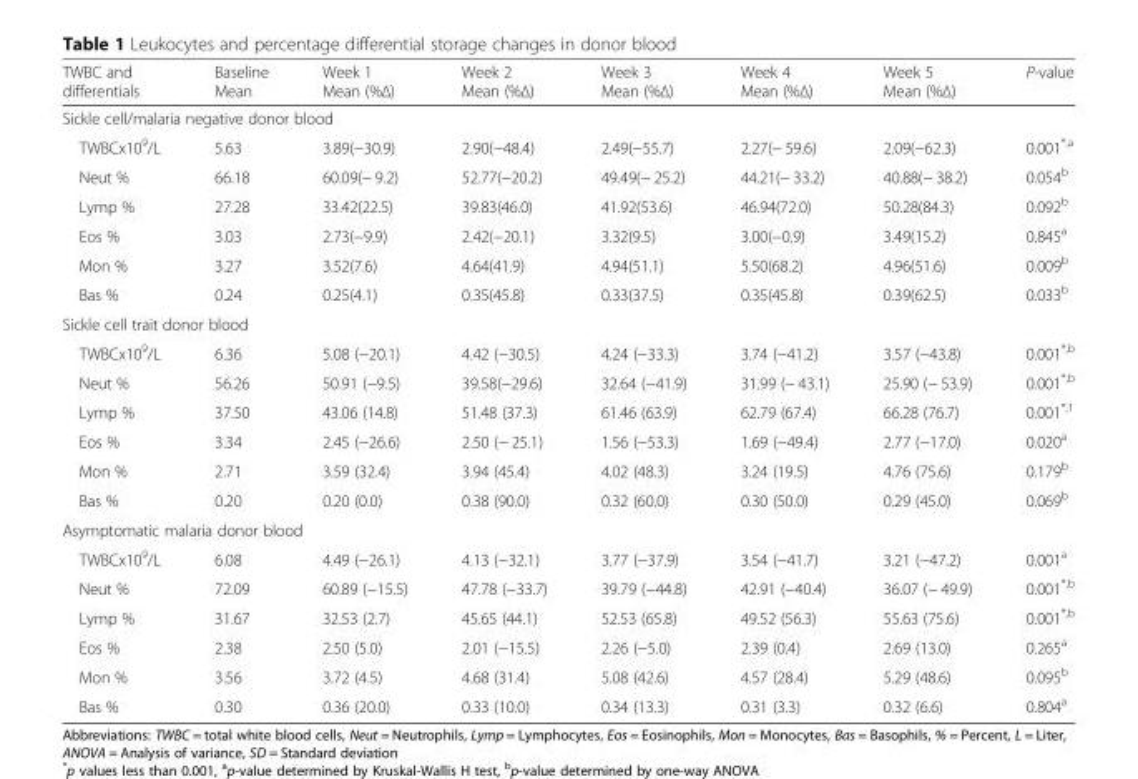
<table><thead><tr><td>TWBC and differentials</td><td>Baseline Mean</td><td>Week 1 Mean (%Δ)</td><td>Week 2 Mean (%Δ)</td><td>Week 3 Mean (%Δ)</td><td>Week 4 Mean (%Δ)</td><td>Week 5 Mean (%Δ)</td><td>P-value</td></tr></thead><tbody><tr><td colspan="8">Sickle cell/malaria negative donor blood</td></tr><tr><td>TWBCx10<sup>9</sup>/L</td><td>5.63</td><td>3.89(−30.9)</td><td>2.90(−48.4)</td><td>2.49(−55.7)</td><td>2.27(− 59.6)</td><td>2.09(−62.3)</td><td>0.001<sup>*,a</sup></td></tr><tr><td>Neut %</td><td>66.18</td><td>60.09(− 9.2)</td><td>52.77(−20.2)</td><td>49.49(− 25.2)</td><td>44.21(− 33.2)</td><td>40.88(− 38.2)</td><td>0.054<sup>b</sup></td></tr><tr><td>Lymp %</td><td>27.28</td><td>33.42(22.5)</td><td>39.83(46.0)</td><td>41.92(53.6)</td><td>46.94(72.0)</td><td>50.28(84.3)</td><td>0.092<sup>b</sup></td></tr><tr><td>Eos %</td><td>3.03</td><td>2.73(−9.9)</td><td>2.42(−20.1)</td><td>3.32(9.5)</td><td>3.00(−0.9)</td><td>3.49(15.2)</td><td>0.845<sup>a</sup></td></tr><tr><td>Mon %</td><td>3.27</td><td>3.52(7.6)</td><td>4.64(41.9)</td><td>4.94(51.1)</td><td>5.50(68.2)</td><td>4.96(51.6)</td><td>0.009<sup>b</sup></td></tr><tr><td>Bas %</td><td>0.24</td><td>0.25(4.1)</td><td>0.35(45.8)</td><td>0.33(37.5)</td><td>0.35(45.8)</td><td>0.39(62.5)</td><td>0.033<sup>b</sup></td></tr><tr><td colspan="8">Sickle cell trait donor blood</td></tr><tr><td>TWBCx10<sup>9</sup>/L</td><td>6.36</td><td>5.08 (−20.1)</td><td>4.42 (−30.5)</td><td>4.24 (−33.3)</td><td>3.74 (−41.2)</td><td>3.57 (−43.8)</td><td>0.001<sup>*,b</sup></td></tr><tr><td>Neut %</td><td>56.26</td><td>50.91 (−9.5)</td><td>39.58(−29.6)</td><td>32.64 (−41.9)</td><td>31.99 (− 43.1)</td><td>25.90 (− 53.9)</td><td>0.001<sup>*,b</sup></td></tr><tr><td>Lymp %</td><td>37.50</td><td>43.06 (14.8)</td><td>51.48 (37.3)</td><td>61.46 (63.9)</td><td>62.79 (67.4)</td><td>66.28 (76.7)</td><td>0.001<sup>*,1</sup></td></tr><tr><td>Eos %</td><td>3.34</td><td>2.45 (−26.6)</td><td>2.50 (− 25.1)</td><td>1.56 (−53.3)</td><td>1.69 (−49.4)</td><td>2.77 (−17.0)</td><td>0.020<sup>a</sup></td></tr><tr><td>Mon %</td><td>2.71</td><td>3.59 (32.4)</td><td>3.94 (45.4)</td><td>4.02 (48.3)</td><td>3.24 (19.5)</td><td>4.76 (75.6)</td><td>0.179<sup>b</sup></td></tr><tr><td>Bas %</td><td>0.20</td><td>0.20 (0.0)</td><td>0.38 (90.0)</td><td>0.32 (60.0)</td><td>0.30 (50.0)</td><td>0.29 (45.0)</td><td>0.069<sup>b</sup></td></tr><tr><td colspan="8">Asymptomatic malaria donor blood</td></tr><tr><td>TWBCx10<sup>9</sup>/L</td><td>6.08</td><td>4.49 (−26.1)</td><td>4.13 (−32.1)</td><td>3.77 (−37.9)</td><td>3.54 (−41.7)</td><td>3.21 (−47.2)</td><td>0.001<sup>a</sup></td></tr><tr><td>Neut %</td><td>72.09</td><td>60.89 (−15.5)</td><td>47.78 (−33.7)</td><td>39.79 (−44.8)</td><td>42.91 (−40.4)</td><td>36.07 (− 49.9)</td><td>0.001<sup>*,b</sup></td></tr><tr><td>Lymp %</td><td>31.67</td><td>32.53 (2.7)</td><td>45.65 (44.1)</td><td>52.53 (65.8)</td><td>49.52 (56.3)</td><td>55.63 (75.6)</td><td>0.001<sup>*,b</sup></td></tr><tr><td>Eos %</td><td>2.38</td><td>2.50 (5.0)</td><td>2.01 (−15.5)</td><td>2.26 (−5.0)</td><td>2.39 (0.4)</td><td>2.69 (13.0)</td><td>0.265<sup>a</sup></td></tr><tr><td>Mon %</td><td>3.56</td><td>3.72 (4.5)</td><td>4.68 (31.4)</td><td>5.08 (42.6)</td><td>4.57 (28.4)</td><td>5.29 (48.6)</td><td>0.095<sup>b</sup></td></tr><tr><td>Bas %</td><td>0.30</td><td>0.36 (20.0)</td><td>0.33 (10.0)</td><td>0.34 (13.3)</td><td>0.31 (3.3)</td><td>0.32 (6.6)</td><td>0.804<sup>a</sup></td></tr></tbody></table>